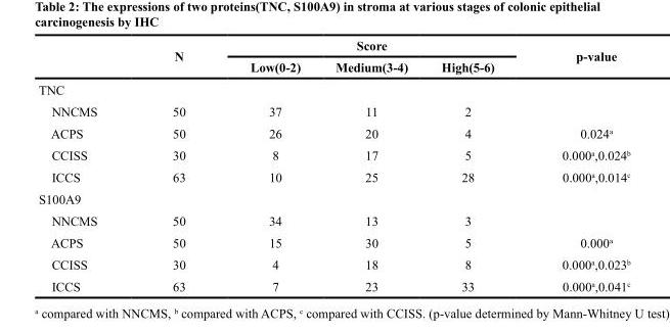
<table><thead><tr><td rowspan="2"></td><td rowspan="2">N</td><td colspan="3">Score</td><td rowspan="2">p-value</td></tr><tr><td>Low(0-2)</td><td>Medium(3-4)</td><td>High(5-6)</td></tr></thead><tbody><tr><td colspan="6">TNC</td></tr><tr><td>NNCMS</td><td>50</td><td>37</td><td>11</td><td>2</td><td></td></tr><tr><td>ACPS</td><td>50</td><td>26</td><td>20</td><td>4</td><td>0.024<sup>a</sup></td></tr><tr><td>CCISS</td><td>30</td><td>8</td><td>17</td><td>5</td><td>0.000<sup>a</sup>,0.024<sup>b</sup></td></tr><tr><td>ICCS</td><td>63</td><td>10</td><td>25</td><td>28</td><td>0.000<sup>a</sup>,0.014<sup>c</sup></td></tr><tr><td colspan="6">S100A9</td></tr><tr><td>NNCMS</td><td>50</td><td>34</td><td>13</td><td>3</td><td></td></tr><tr><td>ACPS</td><td>50</td><td>15</td><td>30</td><td>5</td><td>0.000<sup>a</sup></td></tr><tr><td>CCISS</td><td>30</td><td>4</td><td>18</td><td>8</td><td>0.000<sup>a</sup>,0.023<sup>b</sup></td></tr><tr><td>ICCS</td><td>63</td><td>7</td><td>23</td><td>33</td><td>0.000<sup>a</sup>,0.041<sup>c</sup></td></tr></tbody></table>